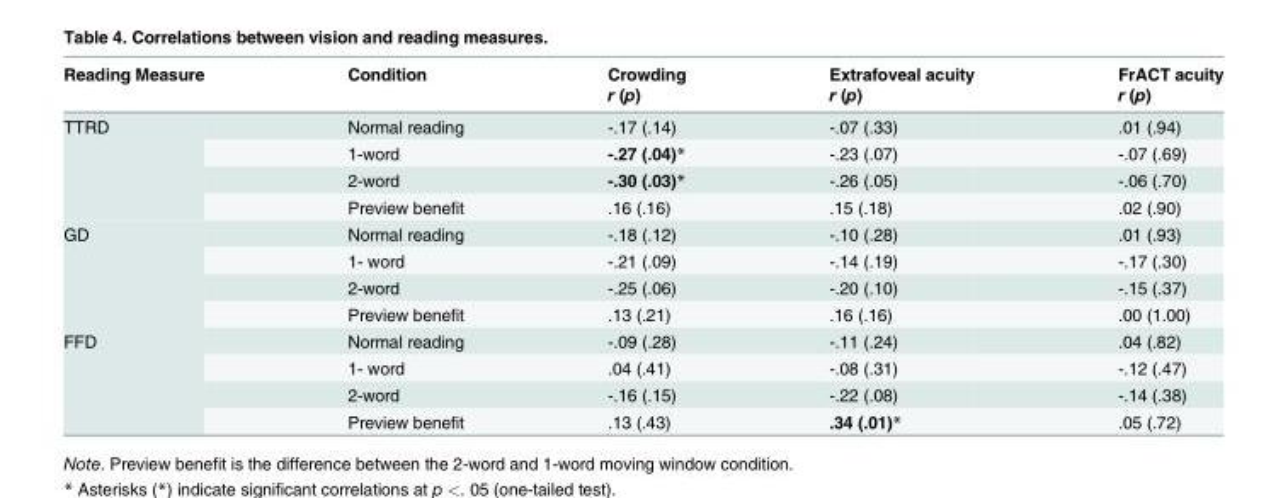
<table><thead><tr><td rowspan="2">Reading Measure</td><td rowspan="2">Condition</td><td rowspan="2">Crowding r (p)</td><td rowspan="2">Extrafoveal acuity r (p)</td><td rowspan="2">FrACT acuity r (p)</td></tr><tr></tr></thead><tbody><tr><td rowspan="4">TTRD</td><td>Normal reading</td><td>-.17 (.14)</td><td>-.07 (.33)</td><td>.01 (.94)</td></tr><tr><td>1-word</td><td>-.27 (.04)*</td><td>-.23 (.07)</td><td>-.07 (.69)</td></tr><tr><td>2-word</td><td>-.30 (.03)*</td><td>-.26 (.05)</td><td>-.06 (.70)</td></tr><tr><td>Preview benefit</td><td>.16 (.16)</td><td>.15 (.18)</td><td>.02 (.90)</td></tr><tr><td rowspan="4">GD</td><td>Normal reading</td><td>-.18 (.12)</td><td>-.10 (.28)</td><td>.01 (.93)</td></tr><tr><td>1- word</td><td>-.21 (.09)</td><td>-.14 (.19)</td><td>-.17 (.30)</td></tr><tr><td>2-word</td><td>-.25 (.06)</td><td>-.20 (.10)</td><td>-.15 (.37)</td></tr><tr><td>Preview benefit</td><td>.13 (.21)</td><td>.16 (.16)</td><td>.00 (1.00)</td></tr><tr><td rowspan="4">FFD</td><td>Normal reading</td><td>-.09 (.28)</td><td>-.11 (.24)</td><td>.04 (.82)</td></tr><tr><td>1- word</td><td>.04 (.41)</td><td>-.08 (.31)</td><td>-.12 (.47)</td></tr><tr><td>2-word</td><td>-.16 (.15)</td><td>-.22 (.08)</td><td>-.14 (.38)</td></tr><tr><td>Preview benefit</td><td>.13 (.43)</td><td>.34 (.01)*</td><td>.05 (.72)</td></tr></tbody></table>